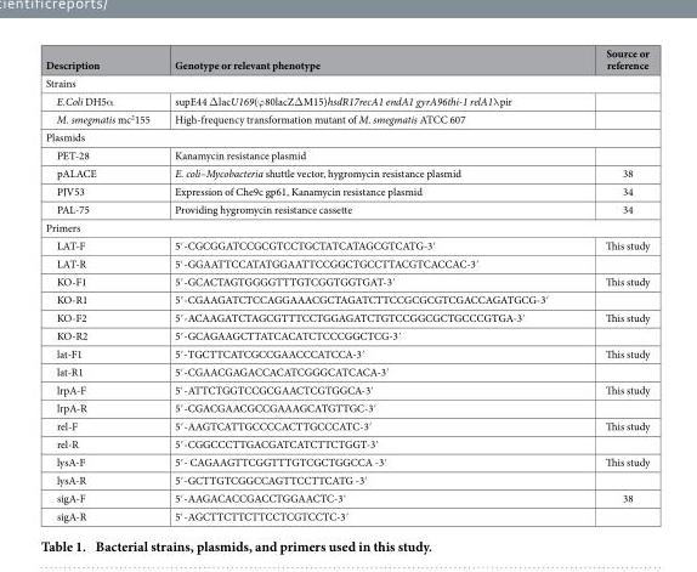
<table><thead><tr><td>Description</td><td>Genotype or relevant phenotype</td><td>Source or reference</td></tr></thead><tbody><tr><td colspan="3">Strains</td></tr><tr><td>E.Coli DH5α</td><td>supE44 Δ lacU169(ϕ 80lacZΔ M15)hsdR17recA1 endA1 gyrA96thi-1 relA1λ pir</td><td></td></tr><tr><td>M. smegmatis mc<sup>2</sup>155</td><td>High-frequency transformation mutant of M. smegmatis ATCC 607</td><td></td></tr><tr><td colspan="3">Plasmids</td></tr><tr><td>PET-28</td><td>Kanamycin resistance plasmid</td><td></td></tr><tr><td>pALACE</td><td>E. coli–Mycobacteria shuttle vector, hygromycin resistance plasmid</td><td>38</td></tr><tr><td>PJV53</td><td>Expression of Che9c gp61, Kanamycin resistance plasmid</td><td>34</td></tr><tr><td>PAL-75</td><td>Providing hygromycin resistance cassette</td><td>34</td></tr><tr><td colspan="3">Primers</td></tr><tr><td>LAT-F</td><td>5′ -CGCGGATCCGCGTCCTGCTATCATAGCGTCATG-3′</td><td>This study</td></tr><tr><td>LAT-R</td><td>5′ -GGAATTCCATATGGAATTCCGGCTGCCTTACGTCACCAC-3′</td><td></td></tr><tr><td>KO-F1</td><td>5′ -GCACTAGTGGGGTTTGTCGGTGGTGAT-3′</td><td>This study</td></tr><tr><td>KO-R1</td><td>5′ -CGAAGATCTCCAGGAAACGCTAGATCTTCCGCGCGTCGACCAGATGCG-3′</td><td></td></tr><tr><td>KO-F2</td><td>5′ -ACAAGATCTAGCGTTTCCTGGAGATCTGTCCGGCGCTGCCCGTGA-3′</td><td>This study</td></tr><tr><td>KO-R2</td><td>5′ -GCAGAAGCTTATCACATCTCCCGGCTCG-3′</td><td></td></tr><tr><td>lat-F1</td><td>5′ -TGCTTCATCGCCGAACCCATCCA-3′</td><td>This study</td></tr><tr><td>lat-R1</td><td>5′ -CGAACGAGACCACATCGGGCATCACA-3′</td><td></td></tr><tr><td>lrpA-F</td><td>5′ -ATTCTGGTCCGCGAACTCGTGGCA-3′</td><td>This study</td></tr><tr><td>lrpA-R</td><td>5′ -CGACGAACGCCGAAAGCATGTTGC-3′</td><td></td></tr><tr><td>rel-F</td><td>5′ -AAGTCATTGCCCCACTTGCCCATC-3′</td><td>This study</td></tr><tr><td>rel-R</td><td>5′ -CGGCCCTTGACGATCATCTTCTGGT-3′</td><td></td></tr><tr><td>lysA-F</td><td>5′ - CAGAAGTTCGGTTTGTCGCTGGCCA -3′</td><td>This study</td></tr><tr><td>lysA-R</td><td>5′ -GCTTGTCGGCCAGTTCCTTCATG -3′</td><td></td></tr><tr><td>sigA-F</td><td>5′ -AAGACACCGACCTGGAACTC-3′</td><td>38</td></tr><tr><td>sigA-R</td><td>5′ -AGCTTCTTCTTCCTCGTCCTC-3′</td><td></td></tr></tbody></table>